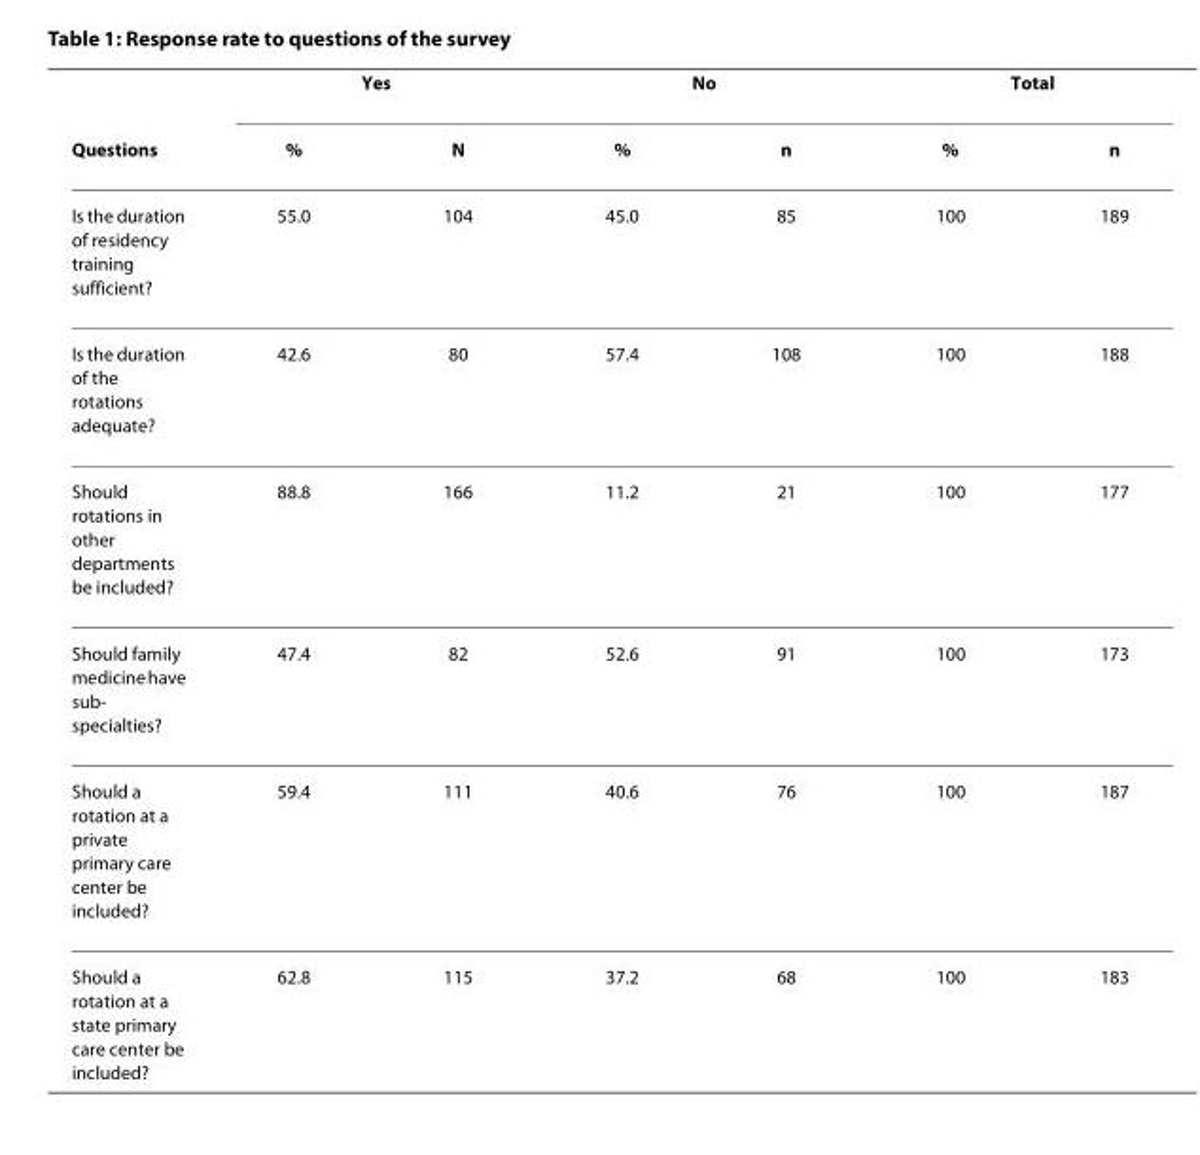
<table><thead><tr><td rowspan="2">Questions</td><td colspan="2">Yes</td><td colspan="2">No</td><td colspan="2">Total</td></tr><tr><td>%</td><td>N</td><td>%</td><td>n</td><td>%</td><td>n</td></tr></thead><tbody><tr><td>Is the duration of residency training sufficient?</td><td>55.0</td><td>104</td><td>45.0</td><td>85</td><td>100</td><td>189</td></tr><tr><td>Is the duration of the rotations adequate?</td><td>42.6</td><td>80</td><td>57.4</td><td>108</td><td>100</td><td>188</td></tr><tr><td>Should rotations in other departments be included?</td><td>88.8</td><td>166</td><td>11.2</td><td>21</td><td>100</td><td>177</td></tr><tr><td>Should family medicine have sub- specialties?</td><td>47.4</td><td>82</td><td>52.6</td><td>91</td><td>100</td><td>173</td></tr><tr><td>Should a rotation at a private primary care center be included?</td><td>59.4</td><td>111</td><td>40.6</td><td>76</td><td>100</td><td>187</td></tr><tr><td>Should a rotation at a state primary care center be included?</td><td>62.8</td><td>115</td><td>37.2</td><td>68</td><td>100</td><td>183</td></tr></tbody></table>